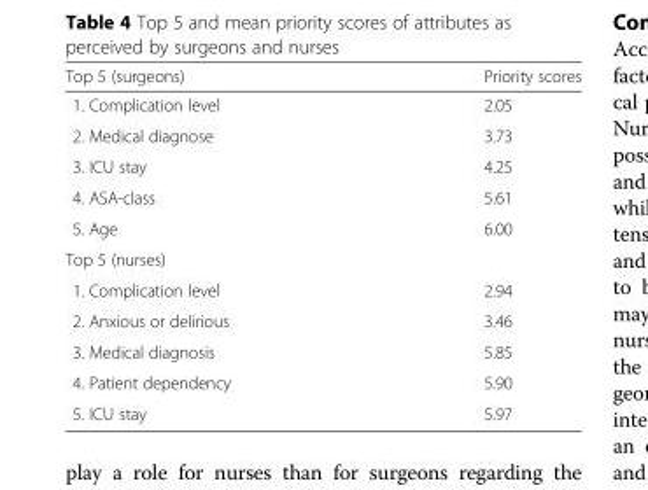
<table><thead><tr><td>Top 5 (surgeons)</td><td>Priority scores</td></tr></thead><tbody><tr><td>1. Complication level</td><td>2.05</td></tr><tr><td>2. Medical diagnose</td><td>3.73</td></tr><tr><td>3. ICU stay</td><td>4.25</td></tr><tr><td>4. ASA-class</td><td>5.61</td></tr><tr><td>5. Age</td><td>6.00</td></tr><tr><td colspan="2">Top 5 (nurses)</td></tr><tr><td>1. Complication level</td><td>2.94</td></tr><tr><td>2. Anxious or delirious</td><td>3.46</td></tr><tr><td>3. Medical diagnosis</td><td>5.85</td></tr><tr><td>4. Patient dependency</td><td>5.90</td></tr><tr><td>5. ICU stay</td><td>5.97</td></tr></tbody></table>